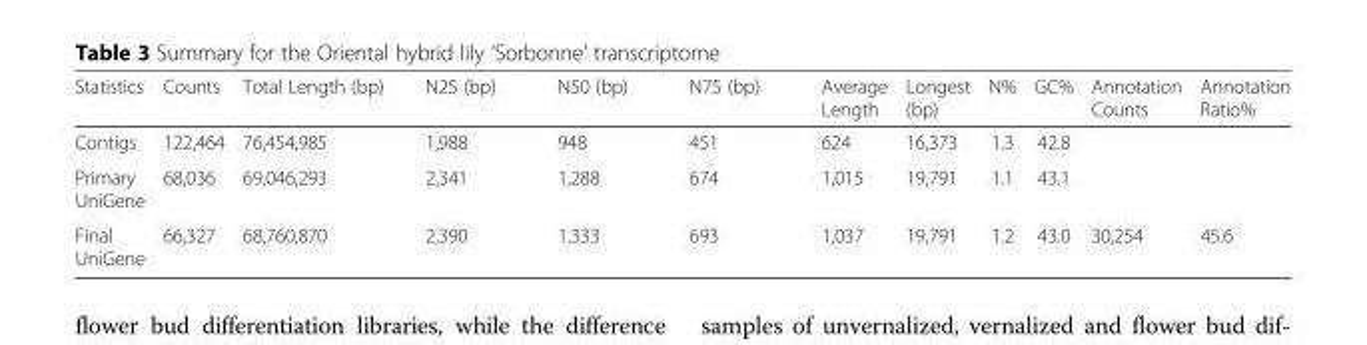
<table><thead><tr><td>Statistics</td><td>Counts</td><td>Total Length (bp)</td><td>N25 (bp)</td><td>N50 (bp)</td><td>N75 (bp)</td><td>Average Length</td><td>Longest (bp)</td><td>N%</td><td>GC%</td><td>Annotation Counts</td><td>Annotation Ratio%</td></tr></thead><tbody><tr><td>Contigs</td><td>122,464</td><td>76,454,985</td><td>1,988</td><td>948</td><td>451</td><td>624</td><td>16,373</td><td>1.3</td><td>42.8</td><td></td><td></td></tr><tr><td>Primary UniGene</td><td>68,036</td><td>69,046,293</td><td>2,341</td><td>1,288</td><td>674</td><td>1,015</td><td>19,791</td><td>1.1</td><td>43.1</td><td></td><td></td></tr><tr><td>Final UniGene</td><td>66,327</td><td>68,760,870</td><td>2,390</td><td>1,333</td><td>693</td><td>1,037</td><td>19,791</td><td>1.2</td><td>43.0</td><td>30,254</td><td>45.6</td></tr></tbody></table>